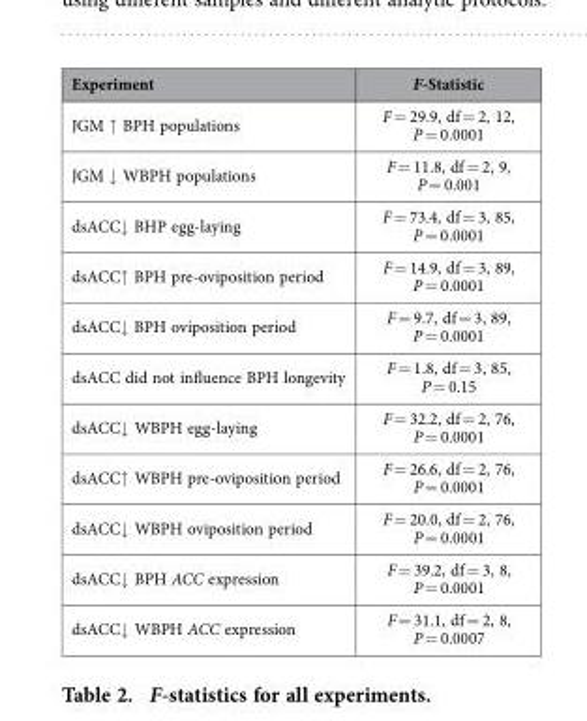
<table><thead><tr><td>Experiment</td><td>F-Statistic</td></tr></thead><tbody><tr><td>JGM ↑ BPH populations</td><td>F = 29.9, df = 2, 12, P = 0.0001</td></tr><tr><td>JGM ↓ WBPH populations</td><td>F = 11.8, df = 2, 9, P = 0.001</td></tr><tr><td>dsACC↓ BHP egg-laying</td><td>F = 73.4, df = 3, 85, P = 0.0001</td></tr><tr><td>dsACC↑ BPH pre-oviposition period</td><td>F = 14.9, df = 3, 89, P = 0.0001</td></tr><tr><td>dsACC↓ BPH oviposition period</td><td>F = 9.7, df = 3, 89, P = 0.0001</td></tr><tr><td>dsACC did not influence BPH longevity</td><td>F = 1.8, df = 3, 85, P = 0.15</td></tr><tr><td>dsACC↓ WBPH egg-laying</td><td>F = 32.2, df = 2, 76, P = 0.0001</td></tr><tr><td>dsACC↑ WBPH pre-oviposition period</td><td>F = 26.6, df = 2, 76, P = 0.0001</td></tr><tr><td>dsACC↓ WBPH oviposition period</td><td>F = 20.0, df = 2, 76, P = 0.0001</td></tr><tr><td>dsACC↓ BPH ACC expression</td><td>F = 39.2, df = 3, 8, P = 0.0001</td></tr><tr><td>dsACC↓ WBPH ACC expression</td><td>F = 31.1, df = 2, 8, P = 0.0007</td></tr></tbody></table>